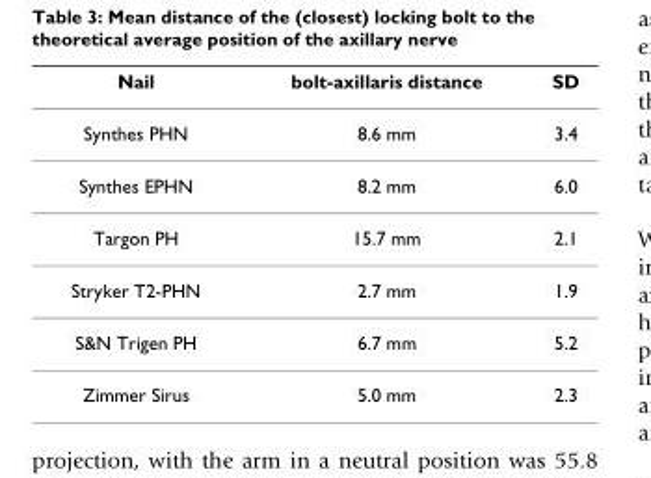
<table><thead><tr><td>Nail</td><td>bolt-axillaris distance</td><td>SD</td></tr></thead><tbody><tr><td>Synthes PHN</td><td>8.6 mm</td><td>3.4</td></tr><tr><td>Synthes EPHN</td><td>8.2 mm</td><td>6.0</td></tr><tr><td>Targon PH</td><td>15.7 mm</td><td>2.1</td></tr><tr><td>Stryker T2-PHN</td><td>2.7 mm</td><td>1.9</td></tr><tr><td>S&amp;N Trigen PH</td><td>6.7 mm</td><td>5.2</td></tr><tr><td>Zimmer Sirus</td><td>5.0 mm</td><td>2.3</td></tr></tbody></table>